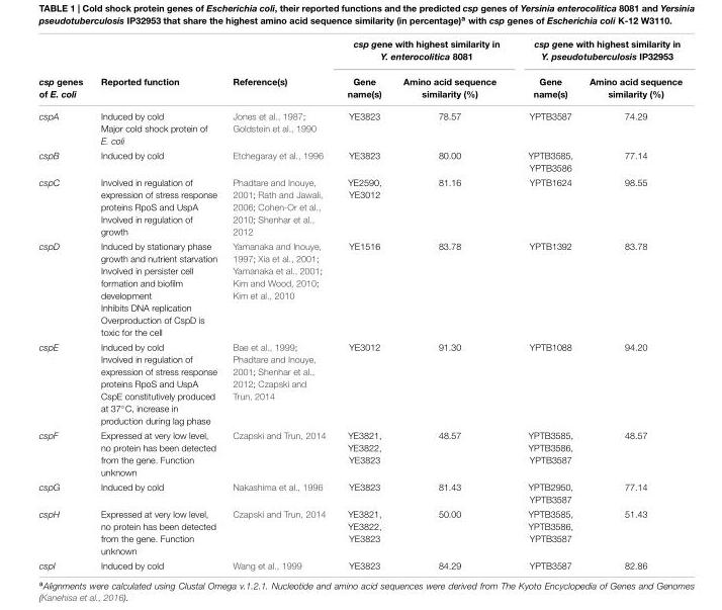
<table><thead><tr><td rowspan="2">csp genes of E. coli</td><td rowspan="2">Reported function</td><td rowspan="2">Reference(s)</td><td colspan="2">csp gene with highest similarity in Y. enterocolitica 8081</td><td colspan="2">csp gene with highest similarity in Y. pseudotuberculosis IP32953</td></tr><tr><td>Gene name(s)</td><td>Amino acid sequence similarity (%)</td><td>Gene name(s)</td><td>Amino acid sequence similarity (%)</td></tr></thead><tbody><tr><td>cspA</td><td>Induced by cold Major cold shock protein of E. coli</td><td>Jones et al., 1987; Goldstein et al., 1990</td><td>YE3823</td><td>78.57</td><td>YPTB3587</td><td>74.29</td></tr><tr><td>cspB</td><td>Induced by cold</td><td>Etchegaray et al., 1996</td><td>YE3823</td><td>80.00</td><td>YPTB3585, YPTB3586</td><td>77.14</td></tr><tr><td>cspC</td><td>Involved in regulation of expression of stress response proteins RpoS and UspA Involved in regulation of growth</td><td>Phadtare and Inouye, 2001; Rath and Jawali, 2006; Cohen-Or et al., 2010; Shenhar et al., 2012</td><td>YE2590, YE3012</td><td>81.16</td><td>YPTB1624</td><td>98.55</td></tr><tr><td>cspD</td><td>Induced by stationary phase growth and nutrient starvation Involved in persister cell formation and biofilm development Inhibits DNA replication Overproduction of CspD is toxic for the cell</td><td>Yamanaka and Inouye, 1997; Xia et al., 2001; Yamanaka et al., 2001; Kim and Wood, 2010; Kim et al., 2010</td><td>YE1516</td><td>83.78</td><td>YPTB1392</td><td>83.78</td></tr><tr><td>cspE</td><td>Induced by cold Involved in regulation of expression of stress response proteins RpoS and UspA CspE constitutively produced at 37◦C, increase in production during lag phase</td><td>Bae et al., 1999; Phadtare and Inouye, 2001; Shenhar et al., 2012; Czapski and Trun, 2014</td><td>YE3012</td><td>91.30</td><td>YPTB1088</td><td>94.20</td></tr><tr><td>cspF</td><td>Expressed at very low level, no protein has been detected from the gene. Function unknown</td><td>Czapski and Trun, 2014</td><td>YE3821, YE3822, YE3823</td><td>48.57</td><td>YPTB3585, YPTB3586, YPTB3587</td><td>48.57</td></tr><tr><td>cspG</td><td>Induced by cold</td><td>Nakashima et al., 1996</td><td>YE3823</td><td>81.43</td><td>YPTB2950, YPTB3587</td><td>77.14</td></tr><tr><td>cspH</td><td>Expressed at very low level, no protein has been detected from the gene. Function unknown</td><td>Czapski and Trun, 2014</td><td>YE3821, YE3822, YE3823</td><td>50.00</td><td>YPTB3585, YPTB3586, YPTB3587</td><td>51.43</td></tr><tr><td>cspI</td><td>Induced by cold</td><td>Wang et al., 1999</td><td>YE3823</td><td>84.29</td><td>YPTB3587</td><td>82.86</td></tr></tbody></table>